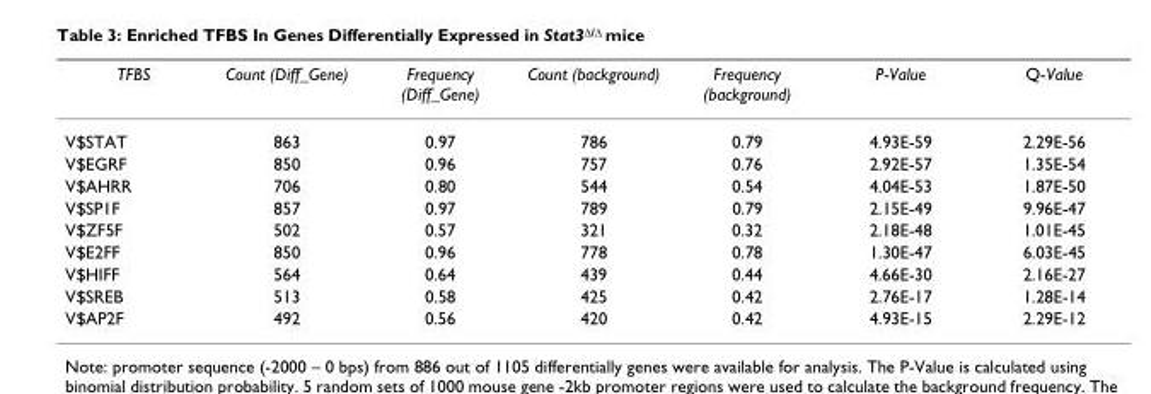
<table><thead><tr><td>TFBS</td><td>Count (Diff_Gene)</td><td>Frequency (Diff_Gene)</td><td>Count (background)</td><td>Frequency (background)</td><td>P-Value</td><td>Q-Value</td></tr></thead><tbody><tr><td>V$STAT</td><td>863</td><td>0.97</td><td>786</td><td>0.79</td><td>4.93E-59</td><td>2.29E-56</td></tr><tr><td>V$EGRF</td><td>850</td><td>0.96</td><td>757</td><td>0.76</td><td>2.92E-57</td><td>1.35E-54</td></tr><tr><td>V$AHRR</td><td>706</td><td>0.80</td><td>544</td><td>0.54</td><td>4.04E-53</td><td>1.87E-50</td></tr><tr><td>V$SP1F</td><td>857</td><td>0.97</td><td>789</td><td>0.79</td><td>2.15E-49</td><td>9.96E-47</td></tr><tr><td>V$ZF5F</td><td>502</td><td>0.57</td><td>321</td><td>0.32</td><td>2.18E-48</td><td>1.01E-45</td></tr><tr><td>V$E2FF</td><td>850</td><td>0.96</td><td>778</td><td>0.78</td><td>1.30E-47</td><td>6.03E-45</td></tr><tr><td>V$HIFF</td><td>564</td><td>0.64</td><td>439</td><td>0.44</td><td>4.66E-30</td><td>2.16E-27</td></tr><tr><td>V$SREB</td><td>513</td><td>0.58</td><td>425</td><td>0.42</td><td>2.76E-17</td><td>1.28E-14</td></tr><tr><td>V$AP2F</td><td>492</td><td>0.56</td><td>420</td><td>0.42</td><td>4.93E-15</td><td>2.29E-12</td></tr></tbody></table>